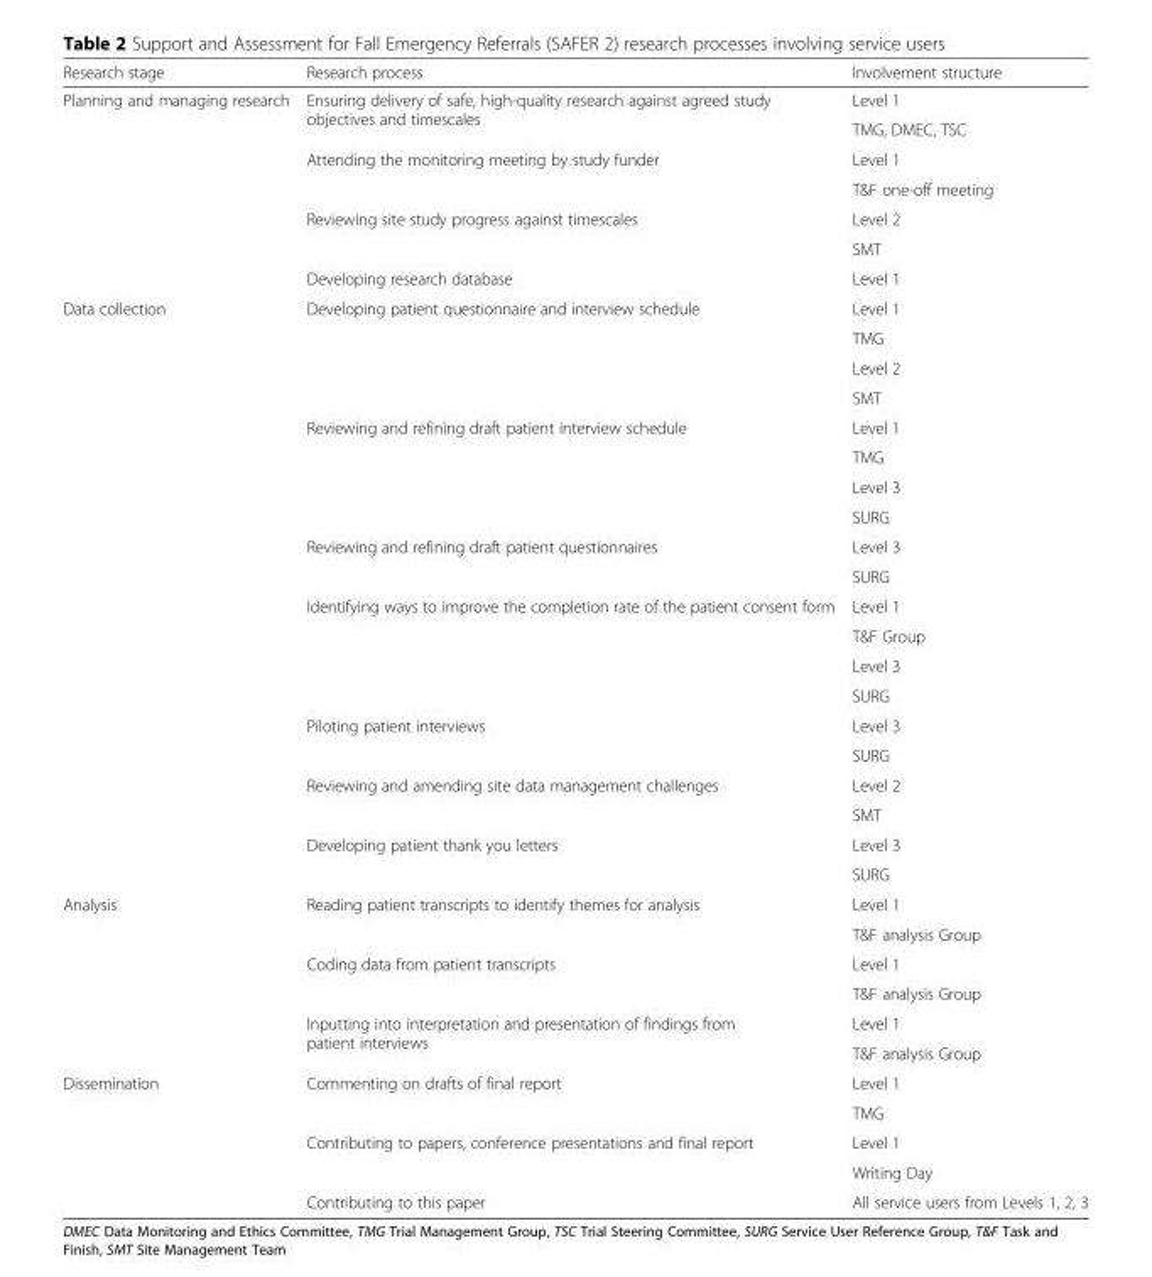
<table><thead><tr><td>Research stage</td><td>Research process</td><td>Involvement structure</td></tr></thead><tbody><tr><td rowspan="7">Planning and managing research</td><td rowspan="2">Ensuring delivery of safe, high-quality research against agreed study objectives and timescales</td><td>Level 1</td></tr><tr><td>TMG, DMEC, TSC</td></tr><tr><td rowspan="2">Attending the monitoring meeting by study funder</td><td>Level 1</td></tr><tr><td>T&amp;F one-off meeting</td></tr><tr><td rowspan="2">Reviewing site study progress against timescales</td><td>Level 2</td></tr><tr><td>SMT</td></tr><tr><td>Developing research database</td><td>Level 1</td></tr><tr><td rowspan="20">Data collection</td><td rowspan="4">Developing patient questionnaire and interview schedule</td><td>Level 1</td></tr><tr><td>TMG</td></tr><tr><td>Level 2</td></tr><tr><td>SMT</td></tr><tr><td rowspan="4">Reviewing and refining draft patient interview schedule</td><td>Level 1</td></tr><tr><td>TMG</td></tr><tr><td>Level 3</td></tr><tr><td>SURG</td></tr><tr><td rowspan="2">Reviewing and refining draft patient questionnaires</td><td>Level 3</td></tr><tr><td>SURG</td></tr><tr><td rowspan="4">Identifying ways to improve the completion rate of the patient consent form</td><td>Level 1</td></tr><tr><td>T&amp;F Group</td></tr><tr><td>Level 3</td></tr><tr><td>SURG</td></tr><tr><td rowspan="2">Piloting patient interviews</td><td>Level 3</td></tr><tr><td>SURG</td></tr><tr><td rowspan="2">Reviewing and amending site data management challenges</td><td>Level 2</td></tr><tr><td>SMT</td></tr><tr><td rowspan="2">Developing patient thank you letters</td><td>Level 3</td></tr><tr><td>SURG</td></tr><tr><td rowspan="6">Analysis</td><td rowspan="2">Reading patient transcripts to identify themes for analysis</td><td>Level 1</td></tr><tr><td>T&amp;F analysis Group</td></tr><tr><td rowspan="2">Coding data from patient transcripts</td><td>Level 1</td></tr><tr><td>T&amp;F analysis Group</td></tr><tr><td rowspan="2">Inputting into interpretation and presentation of findings from patient interviews</td><td>Level 1</td></tr><tr><td>T&amp;F analysis Group</td></tr><tr><td rowspan="5">Dissemination</td><td rowspan="2">Commenting on drafts of final report</td><td>Level 1</td></tr><tr><td>TMG</td></tr><tr><td rowspan="2">Contributing to papers, conference presentations and final report</td><td>Level 1</td></tr><tr><td>Writing Day</td></tr><tr><td>Contributing to this paper</td><td>All service users from Levels 1, 2, 3</td></tr></tbody></table>